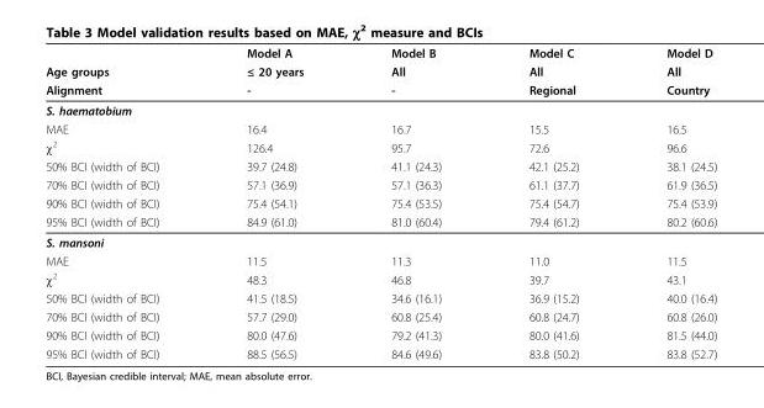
<table><thead><tr><td rowspan="3">Age groups Alignment</td><td rowspan="3">Model A ≤ 20 years -</td><td rowspan="3">Model B All -</td><td rowspan="3">Model C All Regional</td><td rowspan="3">Model D All Country</td></tr><tr></tr><tr></tr></thead><tbody><tr><td colspan="5">S. haematobium</td></tr><tr><td>MAE</td><td>16.4</td><td>16.7</td><td>15.5</td><td>16.5</td></tr><tr><td>χ<sup>2</sup></td><td>126.4</td><td>95.7</td><td>72.6</td><td>96.6</td></tr><tr><td>50% BCI (width of BCI)</td><td>39.7 (24.8)</td><td>41.1 (24.3)</td><td>42.1 (25.2)</td><td>38.1 (24.5)</td></tr><tr><td>70% BCI (width of BCI)</td><td>57.1 (36.9)</td><td>57.1 (36.3)</td><td>61.1 (37.7)</td><td>61.9 (36.5)</td></tr><tr><td>90% BCI (width of BCI)</td><td>75.4 (54.1)</td><td>75.4 (53.5)</td><td>75.4 (54.7)</td><td>75.4 (53.9)</td></tr><tr><td>95% BCI (width of BCI)</td><td>84.9 (61.0)</td><td>81.0 (60.4)</td><td>79.4 (61.2)</td><td>80.2 (60.6)</td></tr><tr><td colspan="5">S. mansoni</td></tr><tr><td>MAE</td><td>11.5</td><td>11.3</td><td>11.0</td><td>11.5</td></tr><tr><td>χ<sup>2</sup></td><td>48.3</td><td>46.8</td><td>39.7</td><td>43.1</td></tr><tr><td>50% BCI (width of BCI)</td><td>41.5 (18.5)</td><td>34.6 (16.1)</td><td>36.9 (15.2)</td><td>40.0 (16.4)</td></tr><tr><td>70% BCI (width of BCI)</td><td>57.7 (29.0)</td><td>60.8 (25.4)</td><td>60.8 (24.7)</td><td>60.8 (26.0)</td></tr><tr><td>90% BCI (width of BCI)</td><td>80.0 (47.6)</td><td>79.2 (41.3)</td><td>80.0 (41.6)</td><td>81.5 (44.0)</td></tr><tr><td>95% BCI (width of BCI)</td><td>88.5 (56.5)</td><td>84.6 (49.6)</td><td>83.8 (50.2)</td><td>83.8 (52.7)</td></tr></tbody></table>